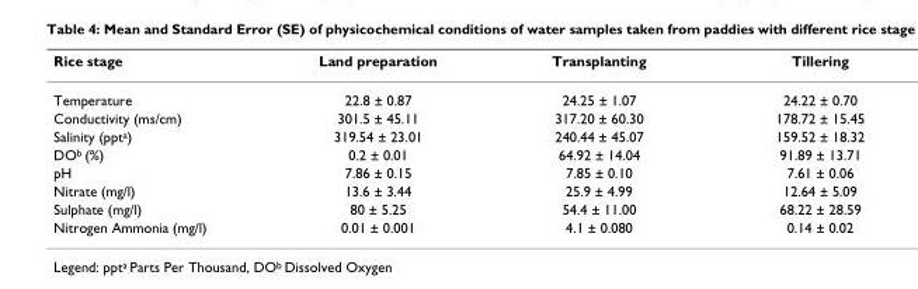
<table><thead><tr><td>Rice stage</td><td>Land preparation</td><td>Transplanting</td><td>Tillering</td></tr></thead><tbody><tr><td>Temperature</td><td>22.8 ± 0.87</td><td>24.25 ± 1.07</td><td>24.22 ± 0.70</td></tr><tr><td>Conductivity (ms/cm)</td><td>301.5 ± 45.11</td><td>317.20 ± 60.30</td><td>178.72 ± 15.45</td></tr><tr><td>Salinity (ppt<sup>a</sup>)</td><td>319.54 ± 23.01</td><td>240.44 ± 45.07</td><td>159.52 ± 18.32</td></tr><tr><td>DO<sup>b</sup> (%)</td><td>0.2 ± 0.01</td><td>64.92 ± 14.04</td><td>91.89 ± 13.71</td></tr><tr><td>pH</td><td>7.86 ± 0.15</td><td>7.85 ± 0.10</td><td>7.61 ± 0.06</td></tr><tr><td>Nitrate (mg/l)</td><td>13.6 ± 3.44</td><td>25.9 ± 4.99</td><td>12.64 ± 5.09</td></tr><tr><td>Sulphate (mg/l)</td><td>80 ± 5.25</td><td>54.4 ± 11.00</td><td>68.22 ± 28.59</td></tr><tr><td>Nitrogen Ammonia (mg/l)</td><td>0.01 ± 0.001</td><td>4.1 ± 0.080</td><td>0.14 ± 0.02</td></tr></tbody></table>